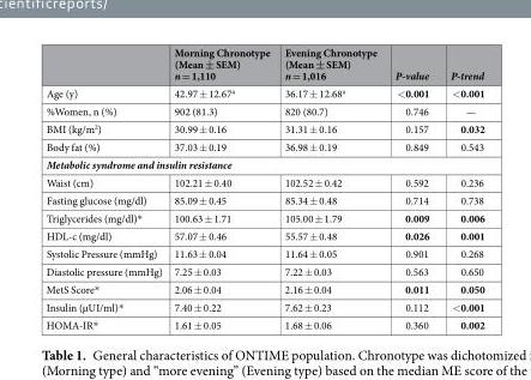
<table><thead><tr><td></td><td>Morning Chronotype (Mean ± SEM) n = 1,110</td><td>Evening Chronotype (Mean ± SEM) n = 1,016</td><td>P-value</td><td>P-trend</td></tr></thead><tbody><tr><td>Age (y)</td><td>42.97 ± 12.67<sup>a</sup></td><td>36.17 ± 12.68<sup>a</sup></td><td>&lt;0.001</td><td>&lt;0.001</td></tr><tr><td>%Women, n (%)</td><td>902 (81.3)</td><td>820 (80.7)</td><td>0.746</td><td>—</td></tr><tr><td>BMI (kg/m<sup>2</sup>)</td><td>30.99 ± 0.16</td><td>31.31 ± 0.16</td><td>0.157</td><td>0.032</td></tr><tr><td>Body fat (%)</td><td>37.03 ± 0.19</td><td>36.98 ± 0.19</td><td>0.849</td><td>0.543</td></tr><tr><td colspan="5">Metabolic syndrome and insulin resistance</td></tr><tr><td>Waist (cm)</td><td>102.21 ± 0.40</td><td>102.52 ± 0.42</td><td>0.592</td><td>0.236</td></tr><tr><td>Fasting glucose (mg/dl)</td><td>85.09 ± 0.45</td><td>85.34 ± 0.48</td><td>0.714</td><td>0.738</td></tr><tr><td>Triglycerides (mg/dl)*</td><td>100.63 ± 1.71</td><td>105.00 ± 1.79</td><td>0.009</td><td>0.006</td></tr><tr><td>HDL-c (mg/dl)</td><td>57.07 ± 0.46</td><td>55.57 ± 0.48</td><td>0.026</td><td>0.001</td></tr><tr><td>Systolic Pressure (mmHg)</td><td>11.63 ± 0.04</td><td>11.64 ± 0.05</td><td>0.901</td><td>0.268</td></tr><tr><td>Diastolic pressure (mmHg)</td><td>7.25 ± 0.03</td><td>7.22 ± 0.03</td><td>0.563</td><td>0.650</td></tr><tr><td>MetS Score*</td><td>2.06 ± 0.04</td><td>2.16 ± 0.04</td><td>0.011</td><td>0.050</td></tr><tr><td>Insulin (µUI/ml)*</td><td>7.40 ± 0.22</td><td>7.62 ± 0.23</td><td>0.112</td><td>&lt;0.001</td></tr><tr><td>HOMA-IR*</td><td>1.61 ± 0.05</td><td>1.68 ± 0.06</td><td>0.360</td><td>0.002</td></tr></tbody></table>